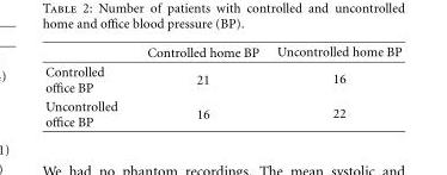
<table><thead><tr><td></td><td>Controlled home BP</td><td>Uncontrolled home BP</td></tr></thead><tbody><tr><td>Controlled office BP</td><td>21</td><td>16</td></tr><tr><td>Uncontrolled office BP</td><td>16</td><td>22</td></tr></tbody></table>